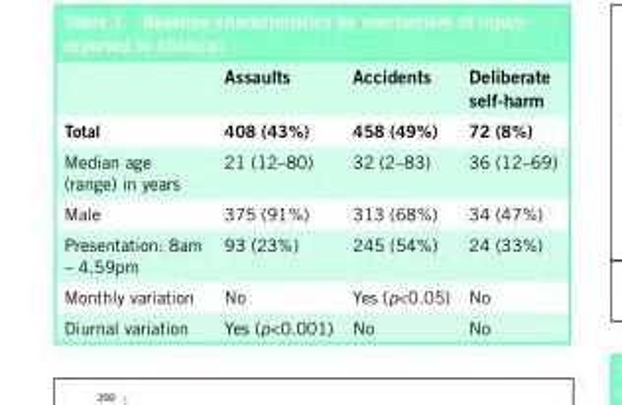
<table><thead><tr><td></td><td>Assaults</td><td>Accidents</td><td>Deliberate self-harm</td></tr></thead><tbody><tr><td>Total</td><td>408 (43%)</td><td>458 (49%)</td><td>72 (8%)</td></tr><tr><td>Median age (range) in years</td><td>21 (12–80)</td><td>32 (2–83)</td><td>36 (12–69)</td></tr><tr><td>Male</td><td>375 (91%)</td><td>313 (68%)</td><td>34 (47%)</td></tr><tr><td>Presentation: 8am – 4.59pm</td><td>93 (23%)</td><td>245 (54%)</td><td>24 (33%)</td></tr><tr><td>Monthly variation</td><td>No</td><td>Yes (p&lt;0.05)</td><td>No</td></tr><tr><td>Diurnal variation</td><td>Yes (p&lt;0.001)</td><td>No</td><td>No</td></tr></tbody></table>